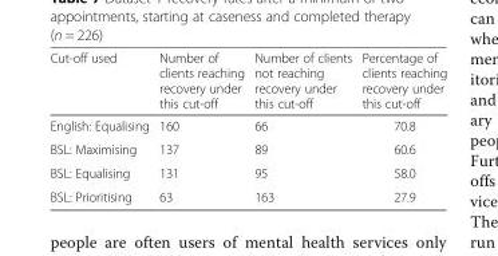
<table><thead><tr><td>Cut-off used</td><td>Number of clients reaching recovery under this cut-off</td><td>Number of clients not reaching recovery under this cut-off</td><td>Percentage of clients reaching recovery under this cut-off</td></tr></thead><tbody><tr><td>English: Equalising</td><td>160</td><td>66</td><td>70.8</td></tr><tr><td>BSL: Maximising</td><td>137</td><td>89</td><td>60.6</td></tr><tr><td>BSL: Equalising</td><td>131</td><td>95</td><td>58.0</td></tr><tr><td>BSL: Prioritising</td><td>63</td><td>163</td><td>27.9</td></tr></tbody></table>